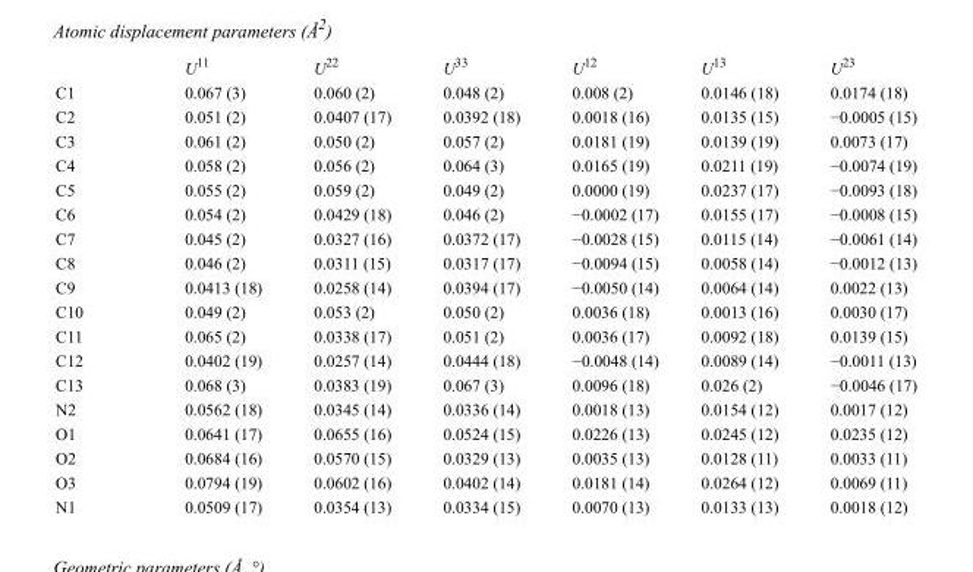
<table><thead><tr><td></td><td>U<sup>11</sup></td><td>U<sup>22</sup></td><td>U<sup>33</sup></td><td>U<sup>12</sup></td><td>U<sup>13</sup></td><td>U<sup>23</sup></td></tr></thead><tbody><tr><td>C1</td><td>0.067 (3)</td><td>0.060 (2)</td><td>0.048 (2)</td><td>0.008 (2)</td><td>0.0146 (18)</td><td>0.0174 (18)</td></tr><tr><td>C2</td><td>0.051 (2)</td><td>0.0407 (17)</td><td>0.0392 (18)</td><td>0.0018 (16)</td><td>0.0135 (15)</td><td>−0.0005 (15)</td></tr><tr><td>C3</td><td>0.061 (2)</td><td>0.050 (2)</td><td>0.057 (2)</td><td>0.0181 (19)</td><td>0.0139 (19)</td><td>0.0073 (17)</td></tr><tr><td>C4</td><td>0.058 (2)</td><td>0.056 (2)</td><td>0.064 (3)</td><td>0.0165 (19)</td><td>0.0211 (19)</td><td>−0.0074 (19)</td></tr><tr><td>C5</td><td>0.055 (2)</td><td>0.059 (2)</td><td>0.049 (2)</td><td>0.0000 (19)</td><td>0.0237 (17)</td><td>−0.0093 (18)</td></tr><tr><td>C6</td><td>0.054 (2)</td><td>0.0429 (18)</td><td>0.046 (2)</td><td>−0.0002 (17)</td><td>0.0155 (17)</td><td>−0.0008 (15)</td></tr><tr><td>C7</td><td>0.045 (2)</td><td>0.0327 (16)</td><td>0.0372 (17)</td><td>−0.0028 (15)</td><td>0.0115 (14)</td><td>−0.0061 (14)</td></tr><tr><td>C8</td><td>0.046 (2)</td><td>0.0311 (15)</td><td>0.0317 (17)</td><td>−0.0094 (15)</td><td>0.0058 (14)</td><td>−0.0012 (13)</td></tr><tr><td>C9</td><td>0.0413 (18)</td><td>0.0258 (14)</td><td>0.0394 (17)</td><td>−0.0050 (14)</td><td>0.0064 (14)</td><td>0.0022 (13)</td></tr><tr><td>C10</td><td>0.049 (2)</td><td>0.053 (2)</td><td>0.050 (2)</td><td>0.0036 (18)</td><td>0.0013 (16)</td><td>0.0030 (17)</td></tr><tr><td>C11</td><td>0.065 (2)</td><td>0.0338 (17)</td><td>0.051 (2)</td><td>0.0036 (17)</td><td>0.0092 (18)</td><td>0.0139 (15)</td></tr><tr><td>C12</td><td>0.0402 (19)</td><td>0.0257 (14)</td><td>0.0444 (18)</td><td>−0.0048 (14)</td><td>0.0089 (14)</td><td>−0.0011 (13)</td></tr><tr><td>C13</td><td>0.068 (3)</td><td>0.0383 (19)</td><td>0.067 (3)</td><td>0.0096 (18)</td><td>0.026 (2)</td><td>−0.0046 (17)</td></tr><tr><td>N2</td><td>0.0562 (18)</td><td>0.0345 (14)</td><td>0.0336 (14)</td><td>0.0018 (13)</td><td>0.0154 (12)</td><td>0.0017 (12)</td></tr><tr><td>O1</td><td>0.0641 (17)</td><td>0.0655 (16)</td><td>0.0524 (15)</td><td>0.0226 (13)</td><td>0.0245 (12)</td><td>0.0235 (12)</td></tr><tr><td>O2</td><td>0.0684 (16)</td><td>0.0570 (15)</td><td>0.0329 (13)</td><td>0.0035 (13)</td><td>0.0128 (11)</td><td>0.0033 (11)</td></tr><tr><td>O3</td><td>0.0794 (19)</td><td>0.0602 (16)</td><td>0.0402 (14)</td><td>0.0181 (14)</td><td>0.0264 (12)</td><td>0.0069 (11)</td></tr><tr><td>N1</td><td>0.0509 (17)</td><td>0.0354 (13)</td><td>0.0334 (15)</td><td>0.0070 (13)</td><td>0.0133 (13)</td><td>0.0018 (12)</td></tr></tbody></table>